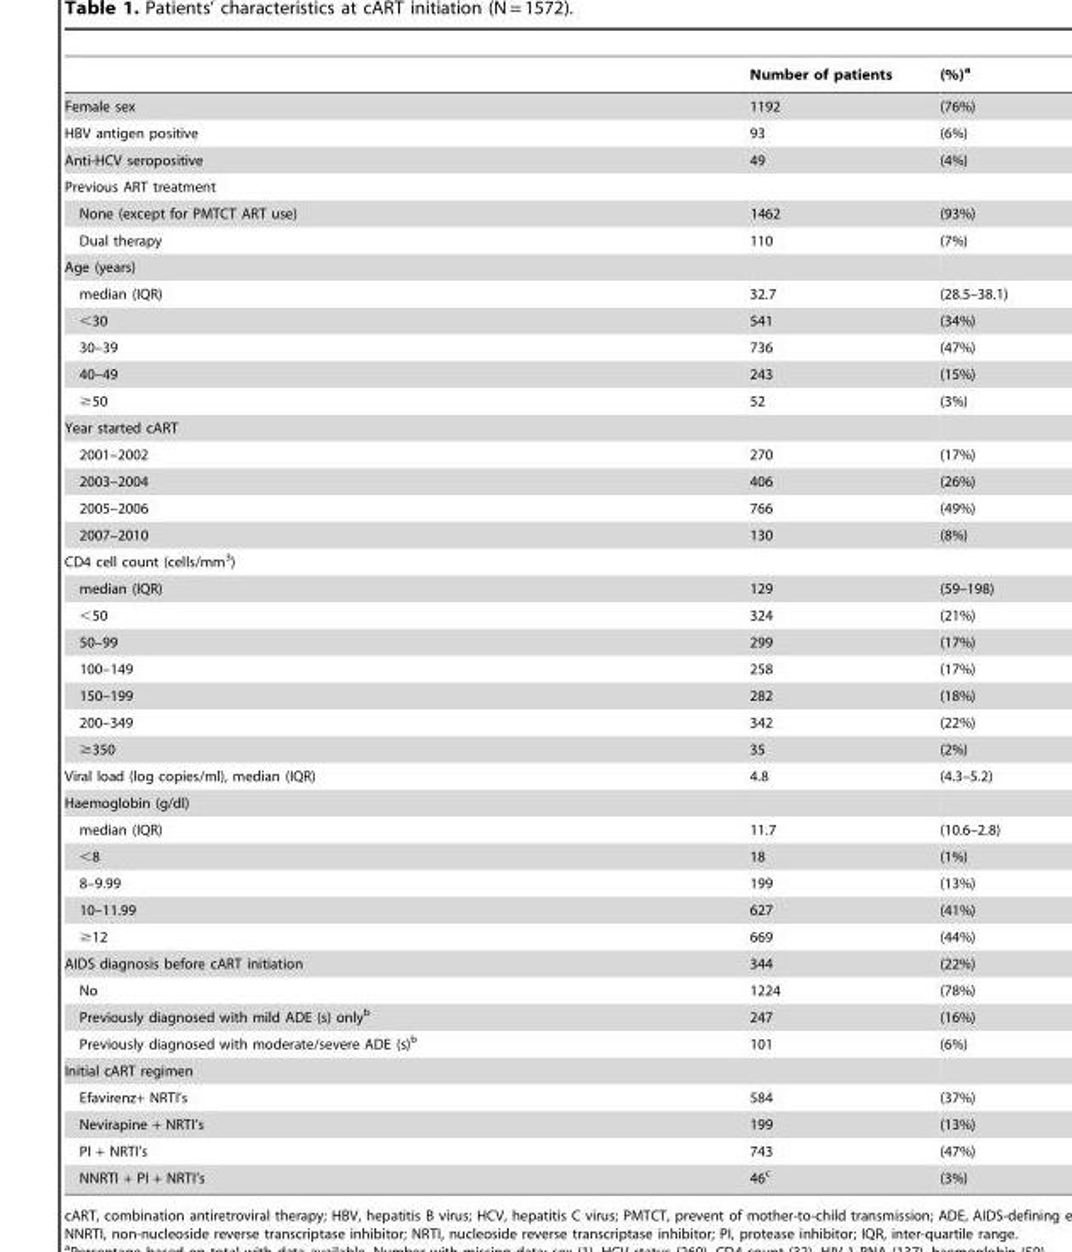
<table><thead><tr><td></td><td>Number of patients</td><td>(%)<sup>a</sup></td></tr></thead><tbody><tr><td>Female sex</td><td>1192</td><td>(76%)</td></tr><tr><td>HBV antigen positive</td><td>93</td><td>(6%)</td></tr><tr><td>Anti-HCV seropositive</td><td>49</td><td>(4%)</td></tr><tr><td colspan="3">Previous ART treatment</td></tr><tr><td>None (except for PMTCT ART use)</td><td>1462</td><td>(93%)</td></tr><tr><td>Dual therapy</td><td>110</td><td>(7%)</td></tr><tr><td colspan="3">Age (years)</td></tr><tr><td>median (IQR)</td><td>32.7</td><td>(28.5–38.1)</td></tr><tr><td>&lt;30</td><td>541</td><td>(34%)</td></tr><tr><td>30–39</td><td>736</td><td>(47%)</td></tr><tr><td>40–49</td><td>243</td><td>(15%)</td></tr><tr><td>≥50</td><td>52</td><td>(3%)</td></tr><tr><td colspan="3">Year started cART</td></tr><tr><td>2001–2002</td><td>270</td><td>(17%)</td></tr><tr><td>2003–2004</td><td>406</td><td>(26%)</td></tr><tr><td>2005–2006</td><td>766</td><td>(49%)</td></tr><tr><td>2007–2010</td><td>130</td><td>(8%)</td></tr><tr><td colspan="3">CD4 cell count (cells/mm<sup>3</sup>)</td></tr><tr><td>median (IQR)</td><td>129</td><td>(59–198)</td></tr><tr><td>&lt;50</td><td>324</td><td>(21%)</td></tr><tr><td>50–99</td><td>299</td><td>(17%)</td></tr><tr><td>100–149</td><td>258</td><td>(17%)</td></tr><tr><td>150–199</td><td>282</td><td>(18%)</td></tr><tr><td>200–349</td><td>342</td><td>(22%)</td></tr><tr><td>≥350</td><td>35</td><td>(2%)</td></tr><tr><td>Viral load (log copies/ml), median (IQR)</td><td>4.8</td><td>(4.3–5.2)</td></tr><tr><td colspan="3">Haemoglobin (g/dl)</td></tr><tr><td>median (IQR)</td><td>11.7</td><td>(10.6–2.8)</td></tr><tr><td>&lt;8</td><td>18</td><td>(1%)</td></tr><tr><td>8–9.99</td><td>199</td><td>(13%)</td></tr><tr><td>10–11.99</td><td>627</td><td>(41%)</td></tr><tr><td>≥12</td><td>669</td><td>(44%)</td></tr><tr><td>AIDS diagnosis before cART initiation</td><td>344</td><td>(22%)</td></tr><tr><td>No</td><td>1224</td><td>(78%)</td></tr><tr><td>Previously diagnosed with mild ADE (s) only<sup>b</sup></td><td>247</td><td>(16%)</td></tr><tr><td>Previously diagnosed with moderate/severe ADE (s)<sup>b</sup></td><td>101</td><td>(6%)</td></tr><tr><td colspan="3">Initial cART regimen</td></tr><tr><td>Efavirenz+ NRTI’s</td><td>584</td><td>(37%)</td></tr><tr><td>Nevirapine + NRTI’s</td><td>199</td><td>(13%)</td></tr><tr><td>PI + NRTI’s</td><td>743</td><td>(47%)</td></tr><tr><td>NNRTI + PI + NRTI’s</td><td>46<sup>c</sup></td><td>(3%)</td></tr></tbody></table>